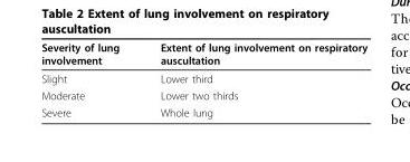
<table><thead><tr><td>Severity of lung involvement</td><td>Extent of lung involvement on respiratory auscultation</td></tr></thead><tbody><tr><td>Slight</td><td>Lower third</td></tr><tr><td>Moderate</td><td>Lower two thirds</td></tr><tr><td>Severe</td><td>Whole lung</td></tr></tbody></table>